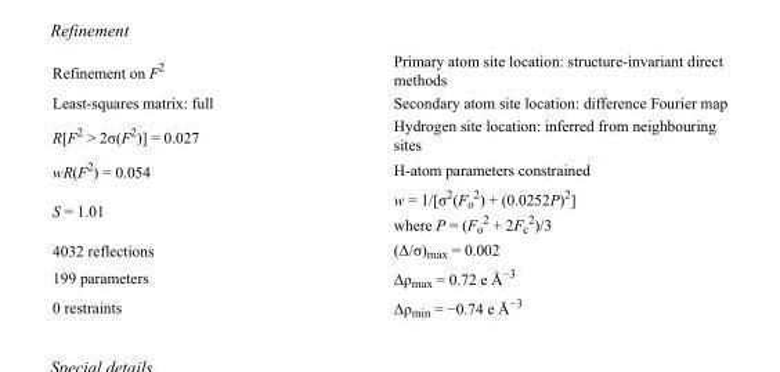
<table><tbody><tr><td>Refinement on F<sup>2</sup></td><td>Primary atom site location: structure-invariant direct methods</td></tr><tr><td>Least-squares matrix: full</td><td>Secondary atom site location: difference Fourier map</td></tr><tr><td>R[F<sup>2</sup> &gt; 2σ(F<sup>2</sup>)] = 0.027</td><td>Hydrogen site location: inferred from neighbouring sites</td></tr><tr><td>wR(F<sup>2</sup>) = 0.054</td><td>H-atom parameters constrained</td></tr><tr><td>S = 1.01</td><td>w = 1/[σ<sup>2</sup>(F<sub>o</sub> <sup>2</sup>) + (0.0252P)<sup>2</sup>] where P = (F<sub>o</sub> <sup>2</sup> + 2F<sub>c</sub> <sup>2</sup>)/3</td></tr><tr><td>4032 reflections</td><td>(Δ/σ)<sub>max</sub> = 0.002</td></tr><tr><td>199 parameters</td><td>Δρ<sub>max</sub> = 0.72 e Å<sup>−3</sup></td></tr><tr><td>0 restraints</td><td>Δρ<sub>min</sub> = −0.74 e Å<sup>−3</sup></td></tr></tbody></table>